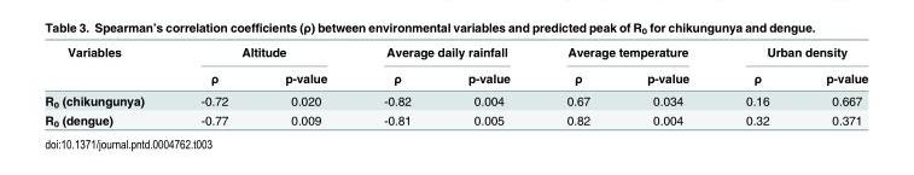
<table><thead><tr><td rowspan="2">Variables</td><td colspan="2">Altitude</td><td colspan="2">Average daily rainfall</td><td colspan="2">Average temperature</td><td colspan="2">Urban density</td></tr><tr><td>ρ</td><td>p-value</td><td>ρ</td><td>p-value</td><td>ρ</td><td>p-value</td><td>ρ</td><td>p-value</td></tr></thead><tbody><tr><td>R<sub>0</sub> (chikungunya)</td><td>-0.72</td><td>0.020</td><td>-0.82</td><td>0.004</td><td>0.67</td><td>0.034</td><td>0.16</td><td>0.667</td></tr><tr><td>R<sub>0</sub> (dengue)</td><td>-0.77</td><td>0.009</td><td>-0.81</td><td>0.005</td><td>0.82</td><td>0.004</td><td>0.32</td><td>0.371</td></tr></tbody></table>